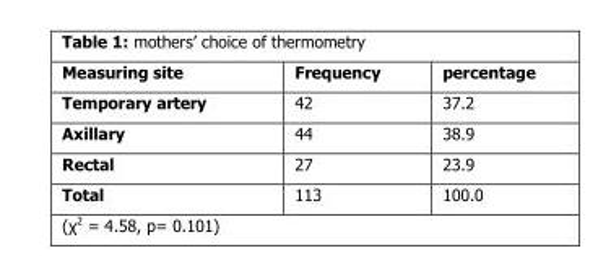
<table><thead><tr><td>Measuring site</td><td>Frequency</td><td>percentage</td></tr></thead><tbody><tr><td>Temporary artery</td><td>42</td><td>37.2</td></tr><tr><td>Axillary</td><td>44</td><td>38.9</td></tr><tr><td>Rectal</td><td>27</td><td>23.9</td></tr><tr><td>Total</td><td>113</td><td>100.0</td></tr></tbody></table>